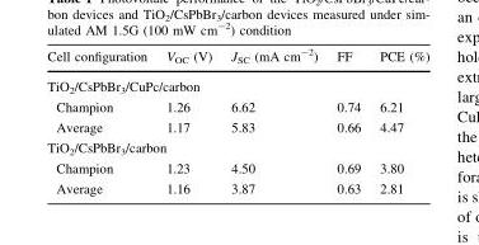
<table><thead><tr><td>Cell configuration</td><td>V<sub>OC</sub> (V)</td><td>J<sub>SC</sub> (mA cm<sup>-2</sup>)</td><td>FF</td><td>PCE (%)</td></tr></thead><tbody><tr><td colspan="5">TiO<sub>2</sub>/CsPbBr<sub>3</sub>/CuPc/carbon</td></tr><tr><td>Champion</td><td>1.26</td><td>6.62</td><td>0.74</td><td>6.21</td></tr><tr><td>Average</td><td>1.17</td><td>5.83</td><td>0.66</td><td>4.47</td></tr><tr><td colspan="5">TiO<sub>2</sub>/CsPbBr<sub>3</sub>/carbon</td></tr><tr><td>Champion</td><td>1.23</td><td>4.50</td><td>0.69</td><td>3.80</td></tr><tr><td>Average</td><td>1.16</td><td>3.87</td><td>0.63</td><td>2.81</td></tr></tbody></table>